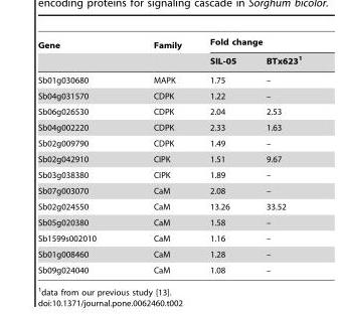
<table><thead><tr><td rowspan="2">Gene</td><td rowspan="2">Family</td><td colspan="2">Fold change</td></tr><tr><td>SIL-05</td><td>BTx623<sup>1</sup></td></tr></thead><tbody><tr><td>Sb01g030680</td><td>MAPK</td><td>1.75</td><td>–</td></tr><tr><td>Sb04g031570</td><td>CDPK</td><td>1.22</td><td>–</td></tr><tr><td>Sb06g026530</td><td>CDPK</td><td>2.04</td><td>2.53</td></tr><tr><td>Sb04g002220</td><td>CDPK</td><td>2.33</td><td>1.63</td></tr><tr><td>Sb02g009790</td><td>CDPK</td><td>1.49</td><td>–</td></tr><tr><td>Sb02g042910</td><td>CIPK</td><td>1.51</td><td>9.67</td></tr><tr><td>Sb03g038380</td><td>CIPK</td><td>1.89</td><td>–</td></tr><tr><td>Sb07g003070</td><td>CaM</td><td>2.08</td><td>–</td></tr><tr><td>Sb02g024550</td><td>CaM</td><td>13.26</td><td>33.52</td></tr><tr><td>Sb05g020380</td><td>CaM</td><td>1.58</td><td>–</td></tr><tr><td>Sb1599s002010</td><td>CaM</td><td>1.16</td><td>–</td></tr><tr><td>Sb01g008460</td><td>CaM</td><td>1.28</td><td>–</td></tr><tr><td>Sb09g024040</td><td>CaM</td><td>1.08</td><td>–</td></tr></tbody></table>